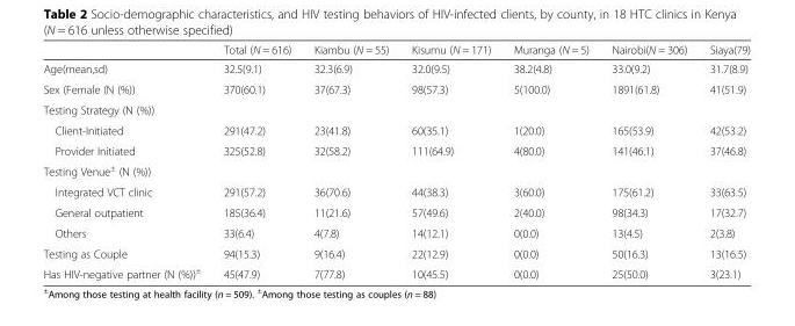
<table><thead><tr><td></td><td>Total (N = 616)</td><td>Kiambu (N = 55)</td><td>Kisumu (N = 171)</td><td>Muranga (N = 5)</td><td>Nairobi(N = 306)</td><td>Siaya(79)</td></tr></thead><tbody><tr><td>Age(mean,sd)</td><td>32.5(9.1)</td><td>32.3(6.9)</td><td>32.0(9.5)</td><td>38.2(4.8)</td><td>33.0(9.2)</td><td>31.7(8.9)</td></tr><tr><td>Sex (Female (N (%))</td><td>370(60.1)</td><td>37(67.3)</td><td>98(57.3)</td><td>5(100.0)</td><td>1891(61.8)</td><td>41(51.9)</td></tr><tr><td colspan="7">Testing Strategy (N (%))</td></tr><tr><td>Client-Initiated</td><td>291(47.2)</td><td>23(41.8)</td><td>60(35.1)</td><td>1(20.0)</td><td>165(53.9)</td><td>42(53.2)</td></tr><tr><td>Provider Initiated</td><td>325(52.8)</td><td>32(58.2)</td><td>111(64.9)</td><td>4(80.0)</td><td>141(46.1)</td><td>37(46.8)</td></tr><tr><td colspan="7">Testing Venue<sup>±</sup> (N (%))</td></tr><tr><td>Integrated VCT clinic</td><td>291(57.2)</td><td>36(70.6)</td><td>44(38.3)</td><td>3(60.0)</td><td>175(61.2)</td><td>33(63.5)</td></tr><tr><td>General outpatient</td><td>185(36.4)</td><td>11(21.6)</td><td>57(49.6)</td><td>2(40.0)</td><td>98(34.3)</td><td>17(32.7)</td></tr><tr><td>Others</td><td>33(6.4)</td><td>4(7.8)</td><td>14(12.1)</td><td>0(0.0)</td><td>13(4.5)</td><td>2(3.8)</td></tr><tr><td>Testing as Couple</td><td>94(15.3)</td><td>9(16.4)</td><td>22(12.9)</td><td>0(0.0)</td><td>50(16.3)</td><td>13(16.5)</td></tr><tr><td>Has HIV-negative partner (N (%))<sup>±</sup></td><td>45(47.9)</td><td>7(77.8)</td><td>10(45.5)</td><td>0(0.0)</td><td>25(50.0)</td><td>3(23.1)</td></tr></tbody></table>